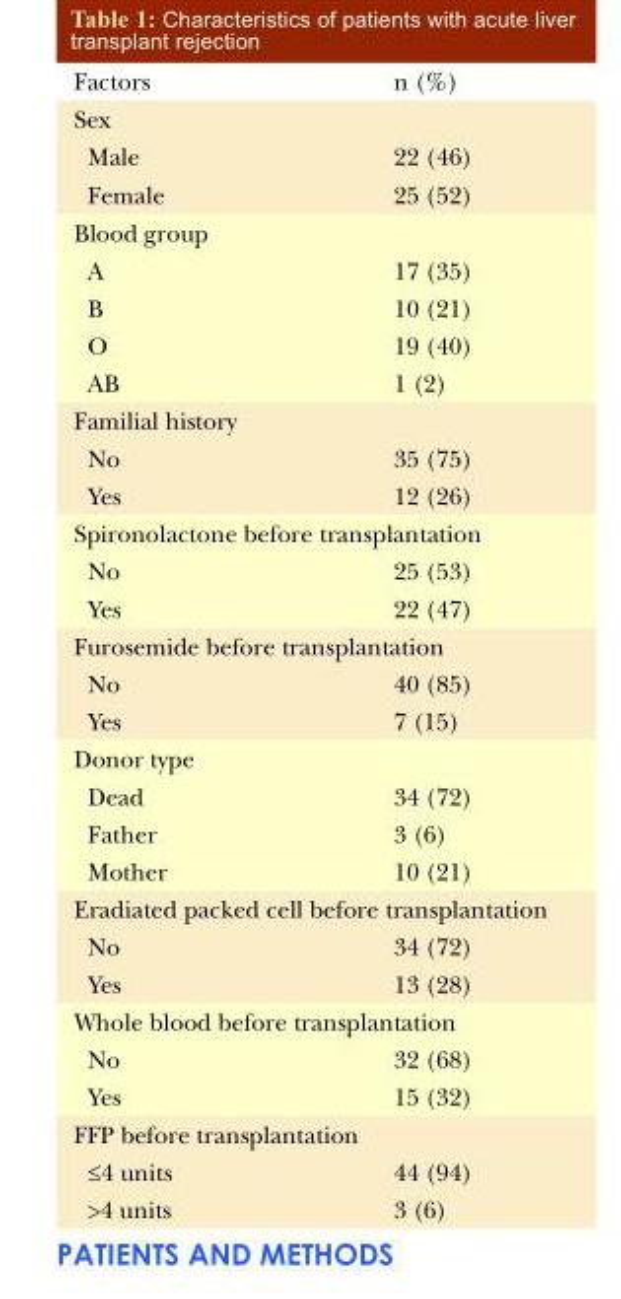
<table><thead><tr><td>Factors</td><td>n (%)</td></tr></thead><tbody><tr><td colspan="2">Sex</td></tr><tr><td>Male</td><td>22 (46)</td></tr><tr><td>Female</td><td>25 (52)</td></tr><tr><td colspan="2">Blood group</td></tr><tr><td>A</td><td>17 (35)</td></tr><tr><td>B</td><td>10 (21)</td></tr><tr><td>O</td><td>19 (40)</td></tr><tr><td>AB</td><td>1 (2)</td></tr><tr><td colspan="2">Familial history</td></tr><tr><td>No</td><td>35 (75)</td></tr><tr><td>Yes</td><td>12 (26)</td></tr><tr><td colspan="2">Spironolactone before transplantation</td></tr><tr><td>No</td><td>25 (53)</td></tr><tr><td>Yes</td><td>22 (47)</td></tr><tr><td colspan="2">Furosemide before transplantation</td></tr><tr><td>No</td><td>40 (85)</td></tr><tr><td>Yes</td><td>7 (15)</td></tr><tr><td colspan="2">Donor type</td></tr><tr><td>Dead</td><td>34 (72)</td></tr><tr><td>Father</td><td>3 (6)</td></tr><tr><td>Mother</td><td>10 (21)</td></tr><tr><td colspan="2">Eradiated packed cell before transplantation</td></tr><tr><td>No</td><td>34 (72)</td></tr><tr><td>Yes</td><td>13 (28)</td></tr><tr><td colspan="2">Whole blood before transplantation</td></tr><tr><td>No</td><td>32 (68)</td></tr><tr><td>Yes</td><td>15 (32)</td></tr><tr><td colspan="2">FFP before transplantation</td></tr><tr><td>≤4 units</td><td>44 (94)</td></tr><tr><td>&gt;4 units</td><td>3 (6)</td></tr></tbody></table>